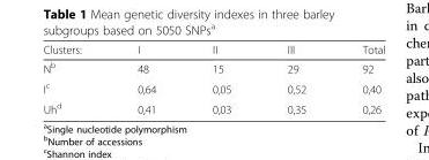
<table><thead><tr><td>Clusters:</td><td>I</td><td>II</td><td>III</td><td>Total</td></tr></thead><tbody><tr><td>N<sup>b</sup></td><td>48</td><td>15</td><td>29</td><td>92</td></tr><tr><td>I<sup>c</sup></td><td>0,64</td><td>0,05</td><td>0,52</td><td>0,40</td></tr><tr><td>Uh<sup>d</sup></td><td>0,41</td><td>0,03</td><td>0,35</td><td>0,26</td></tr></tbody></table>